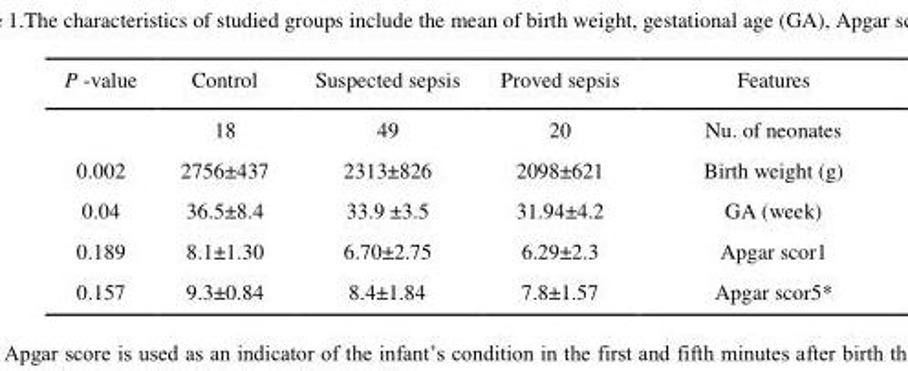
<table><thead><tr><td>Features</td><td>Proved sepsis</td><td>Suspected sepsis</td><td>Control</td><td>P -value</td></tr></thead><tbody><tr><td>Nu. of neonates</td><td>20</td><td>49</td><td>18</td><td></td></tr><tr><td>Birth weight (g)</td><td>2098±621</td><td>2313±826</td><td>2756±437</td><td>0.002</td></tr><tr><td>GA (week)</td><td>31.94±4.2</td><td>33.9 ±3.5</td><td>36.5±8.4</td><td>0.04</td></tr><tr><td>Apgar scor1</td><td>6.29±2.3</td><td>6.70±2.75</td><td>8.1±1.30</td><td>0.189</td></tr><tr><td>Apgar scor5*</td><td>7.8±1.57</td><td>8.4±1.84</td><td>9.3±0.84</td><td>0.157</td></tr></tbody></table>